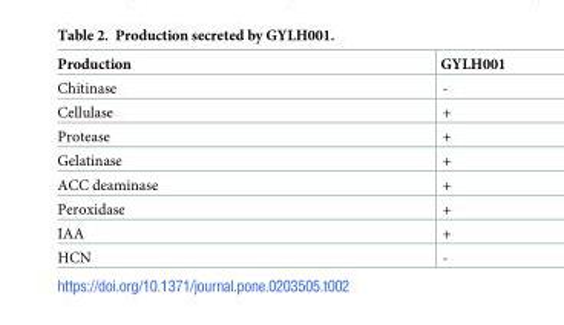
<table><thead><tr><td>Production</td><td>GYLH001</td></tr></thead><tbody><tr><td>Chitinase</td><td>-</td></tr><tr><td>Cellulase</td><td>+</td></tr><tr><td>Protease</td><td>+</td></tr><tr><td>Gelatinase</td><td>+</td></tr><tr><td>ACC deaminase</td><td>+</td></tr><tr><td>Peroxidase</td><td>+</td></tr><tr><td>IAA</td><td>+</td></tr><tr><td>HCN</td><td>-</td></tr></tbody></table>